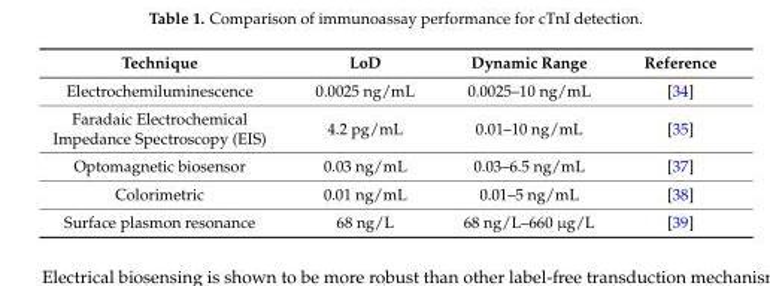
<table><thead><tr><td>Technique</td><td>LoD</td><td>Dynamic Range</td><td>Reference</td></tr></thead><tbody><tr><td>Electrochemiluminescence</td><td>0.0025 ng/mL</td><td>0.0025–10 ng/mL</td><td>[34]</td></tr><tr><td>Faradaic Electrochemical Impedance Spectroscopy (EIS)</td><td>4.2 pg/mL</td><td>0.01–10 ng/mL</td><td>[35]</td></tr><tr><td>Optomagnetic biosensor</td><td>0.03 ng/mL</td><td>0.03–6.5 ng/mL</td><td>[37]</td></tr><tr><td>Colorimetric</td><td>0.01 ng/mL</td><td>0.01–5 ng/mL</td><td>[38]</td></tr><tr><td>Surface plasmon resonance</td><td>68 ng/L</td><td>68 ng/L–660 µg/L</td><td>[39]</td></tr></tbody></table>